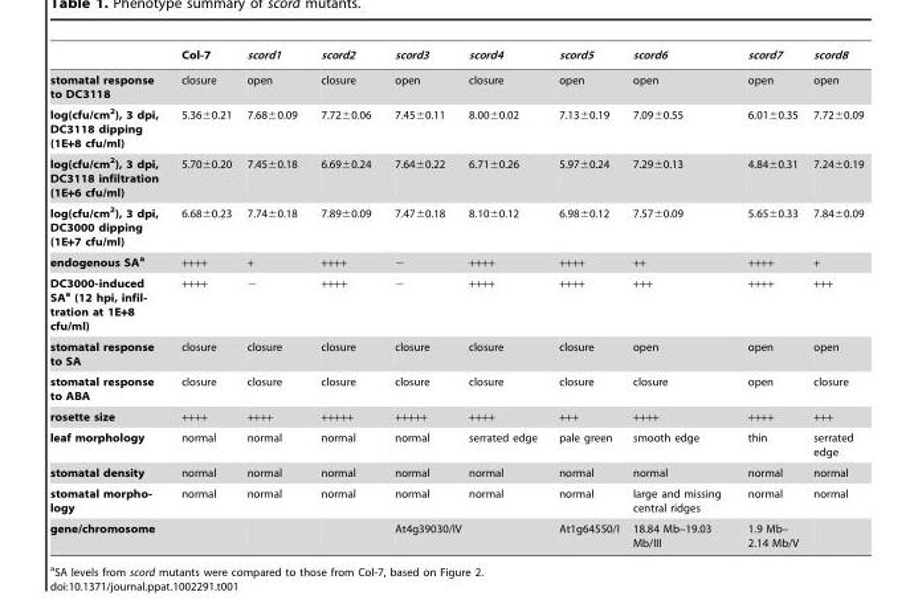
<table><thead><tr><td></td><td>Col-7</td><td>scord1</td><td>scord2</td><td>scord3</td><td>scord4</td><td>scord5</td><td>scord6</td><td>scord7</td><td>scord8</td></tr></thead><tbody><tr><td>stomatal response to DC3118</td><td>closure</td><td>open</td><td>closure</td><td>open</td><td>closure</td><td>open</td><td>open</td><td>open</td><td>open</td></tr><tr><td>log(cfu/cm<sup>2</sup>), 3 dpi, DC3118 dipping (1E+8 cfu/ml)</td><td>5.36±0.21</td><td>7.68±0.09</td><td>7.72±0.06</td><td>7.45±0.11</td><td>8.00±0.02</td><td>7.13±0.19</td><td>7.09±0.55</td><td>6.01±0.35</td><td>7.72±0.09</td></tr><tr><td>log(cfu/cm<sup>2</sup>), 3 dpi, DC3118 infiltration (1E+6 cfu/ml)</td><td>5.70±0.20</td><td>7.45±0.18</td><td>6.69±0.24</td><td>7.64±0.22</td><td>6.71±0.26</td><td>5.97±0.24</td><td>7.29±0.13</td><td>4.84±0.31</td><td>7.24±0.19</td></tr><tr><td>log(cfu/cm<sup>2</sup>), 3 dpi, DC3000 dipping (1E+7 cfu/ml)</td><td>6.68±0.23</td><td>7.74±0.18</td><td>7.89±0.09</td><td>7.47±0.18</td><td>8.10±0.12</td><td>6.98±0.12</td><td>7.57±0.09</td><td>5.65±0.33</td><td>7.84±0.09</td></tr><tr><td>endogenous SAa</td><td>++++</td><td>+</td><td>++++</td><td>−</td><td>++++</td><td>++++</td><td>++</td><td>++++</td><td>+</td></tr><tr><td>DC3000-induced SAa (12 hpi, infil- tration at 1E+8 cfu/ml)</td><td>++++</td><td>−</td><td>++++</td><td>−</td><td>++++</td><td>++++</td><td>+++</td><td>++++</td><td>+++</td></tr><tr><td>stomatal response to SA</td><td>closure</td><td>closure</td><td>closure</td><td>closure</td><td>closure</td><td>closure</td><td>open</td><td>open</td><td>open</td></tr><tr><td>stomatal response to ABA</td><td>closure</td><td>closure</td><td>closure</td><td>closure</td><td>closure</td><td>closure</td><td>closure</td><td>open</td><td>closure</td></tr><tr><td>rosette size</td><td>++++</td><td>++++</td><td>+++++</td><td>+++++</td><td>++++</td><td>+++</td><td>++++</td><td>++++</td><td>+++</td></tr><tr><td>leaf morphology</td><td>normal</td><td>normal</td><td>normal</td><td>normal</td><td>serrated edge</td><td>pale green</td><td>smooth edge</td><td>thin</td><td>serrated edge</td></tr><tr><td>stomatal density</td><td>normal</td><td>normal</td><td>normal</td><td>normal</td><td>normal</td><td>normal</td><td>normal</td><td>normal</td><td>normal</td></tr><tr><td>stomatal morpho- logy</td><td>normal</td><td>normal</td><td>normal</td><td>normal</td><td>normal</td><td>normal</td><td>large and missing central ridges</td><td>normal</td><td>normal</td></tr><tr><td>gene/chromosome</td><td></td><td></td><td></td><td>At4g39030/IV</td><td></td><td>At1g64550/I</td><td>18.84 Mb–19.03 Mb/III</td><td>1.9 Mb– 2.14 Mb/V</td><td></td></tr></tbody></table>